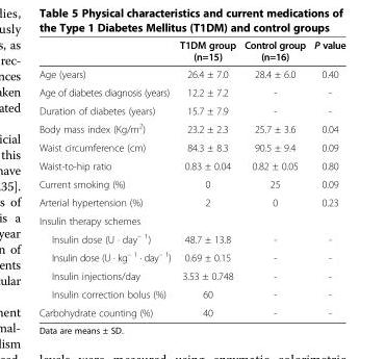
<table><thead><tr><td></td><td>T1DM group (n=15)</td><td>Control group (n=16)</td><td>P value</td></tr></thead><tbody><tr><td>Age (years)</td><td>26.4 ± 7.0</td><td>28.4 ± 6.0</td><td>0.40</td></tr><tr><td>Age of diabetes diagnosis (years)</td><td>12.2 ± 7.2</td><td>-</td><td>-</td></tr><tr><td>Duration of diabetes (years)</td><td>15.7 ± 7.9</td><td>-</td><td>-</td></tr><tr><td>Body mass index (Kg/m<sup>2</sup>)</td><td>23.2 ± 2.3</td><td>25.7 ± 3.6</td><td>0.04</td></tr><tr><td>Waist circumference (cm)</td><td>84.3 ± 8.3</td><td>90.5 ± 9.4</td><td>0.09</td></tr><tr><td>Waist-to-hip ratio</td><td>0.83 ± 0.04</td><td>0.82 ± 0.05</td><td>0.80</td></tr><tr><td>Current smoking (%)</td><td>0</td><td>25</td><td>0.09</td></tr><tr><td>Arterial hypertension (%)</td><td>2</td><td>0</td><td>0.23</td></tr><tr><td colspan="4">Insulin therapy schemes</td></tr><tr><td>Insulin dose (U · day<sup>– 1</sup>)</td><td>48.7 ± 13.8</td><td>-</td><td>-</td></tr><tr><td>Insulin dose (U · kg<sup>– 1</sup> · day<sup>– 1</sup>)</td><td>0.69 ± 0.15</td><td>-</td><td>-</td></tr><tr><td>Insulin injections/day</td><td>3.53 ± 0.748</td><td>-</td><td>-</td></tr><tr><td>Insulin correction bolus (%)</td><td>60</td><td>-</td><td>-</td></tr><tr><td>Carbohydrate counting (%)</td><td>40</td><td>-</td><td>-</td></tr></tbody></table>